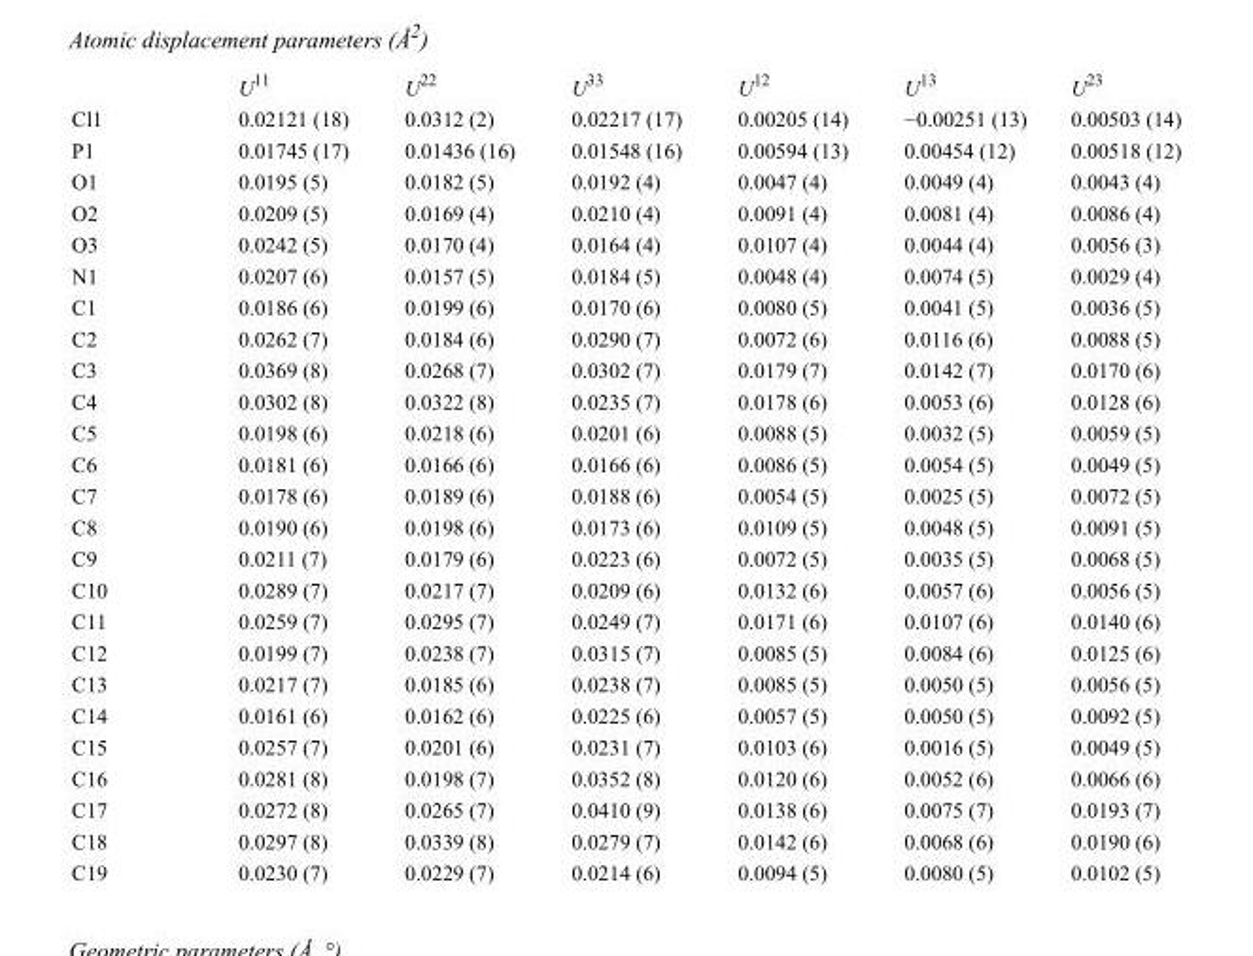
<table><thead><tr><td></td><td>U<sup>11</sup></td><td>U<sup>22</sup></td><td>U<sup>33</sup></td><td>U<sup>12</sup></td><td>U<sup>13</sup></td><td>U<sup>23</sup></td></tr></thead><tbody><tr><td>Cl1</td><td>0.02121 (18)</td><td>0.0312 (2)</td><td>0.02217 (17)</td><td>0.00205 (14)</td><td>−0.00251 (13)</td><td>0.00503 (14)</td></tr><tr><td>P1</td><td>0.01745 (17)</td><td>0.01436 (16)</td><td>0.01548 (16)</td><td>0.00594 (13)</td><td>0.00454 (12)</td><td>0.00518 (12)</td></tr><tr><td>O1</td><td>0.0195 (5)</td><td>0.0182 (5)</td><td>0.0192 (4)</td><td>0.0047 (4)</td><td>0.0049 (4)</td><td>0.0043 (4)</td></tr><tr><td>O2</td><td>0.0209 (5)</td><td>0.0169 (4)</td><td>0.0210 (4)</td><td>0.0091 (4)</td><td>0.0081 (4)</td><td>0.0086 (4)</td></tr><tr><td>O3</td><td>0.0242 (5)</td><td>0.0170 (4)</td><td>0.0164 (4)</td><td>0.0107 (4)</td><td>0.0044 (4)</td><td>0.0056 (3)</td></tr><tr><td>N1</td><td>0.0207 (6)</td><td>0.0157 (5)</td><td>0.0184 (5)</td><td>0.0048 (4)</td><td>0.0074 (5)</td><td>0.0029 (4)</td></tr><tr><td>C1</td><td>0.0186 (6)</td><td>0.0199 (6)</td><td>0.0170 (6)</td><td>0.0080 (5)</td><td>0.0041 (5)</td><td>0.0036 (5)</td></tr><tr><td>C2</td><td>0.0262 (7)</td><td>0.0184 (6)</td><td>0.0290 (7)</td><td>0.0072 (6)</td><td>0.0116 (6)</td><td>0.0088 (5)</td></tr><tr><td>C3</td><td>0.0369 (8)</td><td>0.0268 (7)</td><td>0.0302 (7)</td><td>0.0179 (7)</td><td>0.0142 (7)</td><td>0.0170 (6)</td></tr><tr><td>C4</td><td>0.0302 (8)</td><td>0.0322 (8)</td><td>0.0235 (7)</td><td>0.0178 (6)</td><td>0.0053 (6)</td><td>0.0128 (6)</td></tr><tr><td>C5</td><td>0.0198 (6)</td><td>0.0218 (6)</td><td>0.0201 (6)</td><td>0.0088 (5)</td><td>0.0032 (5)</td><td>0.0059 (5)</td></tr><tr><td>C6</td><td>0.0181 (6)</td><td>0.0166 (6)</td><td>0.0166 (6)</td><td>0.0086 (5)</td><td>0.0054 (5)</td><td>0.0049 (5)</td></tr><tr><td>C7</td><td>0.0178 (6)</td><td>0.0189 (6)</td><td>0.0188 (6)</td><td>0.0054 (5)</td><td>0.0025 (5)</td><td>0.0072 (5)</td></tr><tr><td>C8</td><td>0.0190 (6)</td><td>0.0198 (6)</td><td>0.0173 (6)</td><td>0.0109 (5)</td><td>0.0048 (5)</td><td>0.0091 (5)</td></tr><tr><td>C9</td><td>0.0211 (7)</td><td>0.0179 (6)</td><td>0.0223 (6)</td><td>0.0072 (5)</td><td>0.0035 (5)</td><td>0.0068 (5)</td></tr><tr><td>C10</td><td>0.0289 (7)</td><td>0.0217 (7)</td><td>0.0209 (6)</td><td>0.0132 (6)</td><td>0.0057 (6)</td><td>0.0056 (5)</td></tr><tr><td>C11</td><td>0.0259 (7)</td><td>0.0295 (7)</td><td>0.0249 (7)</td><td>0.0171 (6)</td><td>0.0107 (6)</td><td>0.0140 (6)</td></tr><tr><td>C12</td><td>0.0199 (7)</td><td>0.0238 (7)</td><td>0.0315 (7)</td><td>0.0085 (5)</td><td>0.0084 (6)</td><td>0.0125 (6)</td></tr><tr><td>C13</td><td>0.0217 (7)</td><td>0.0185 (6)</td><td>0.0238 (7)</td><td>0.0085 (5)</td><td>0.0050 (5)</td><td>0.0056 (5)</td></tr><tr><td>C14</td><td>0.0161 (6)</td><td>0.0162 (6)</td><td>0.0225 (6)</td><td>0.0057 (5)</td><td>0.0050 (5)</td><td>0.0092 (5)</td></tr><tr><td>C15</td><td>0.0257 (7)</td><td>0.0201 (6)</td><td>0.0231 (7)</td><td>0.0103 (6)</td><td>0.0016 (5)</td><td>0.0049 (5)</td></tr><tr><td>C16</td><td>0.0281 (8)</td><td>0.0198 (7)</td><td>0.0352 (8)</td><td>0.0120 (6)</td><td>0.0052 (6)</td><td>0.0066 (6)</td></tr><tr><td>C17</td><td>0.0272 (8)</td><td>0.0265 (7)</td><td>0.0410 (9)</td><td>0.0138 (6)</td><td>0.0075 (7)</td><td>0.0193 (7)</td></tr><tr><td>C18</td><td>0.0297 (8)</td><td>0.0339 (8)</td><td>0.0279 (7)</td><td>0.0142 (6)</td><td>0.0068 (6)</td><td>0.0190 (6)</td></tr><tr><td>C19</td><td>0.0230 (7)</td><td>0.0229 (7)</td><td>0.0214 (6)</td><td>0.0094 (5)</td><td>0.0080 (5)</td><td>0.0102 (5)</td></tr></tbody></table>